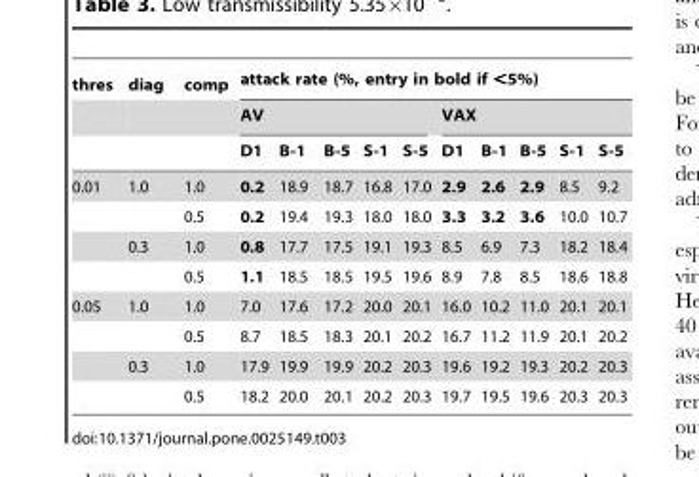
<table><thead><tr><td rowspan="3">thres</td><td rowspan="3">diag</td><td rowspan="3">comp</td><td colspan="10">attack rate (%, entry in bold if &lt;5%)</td></tr><tr><td colspan="5">AV</td><td colspan="5">VAX</td></tr><tr><td>D1</td><td>B-1</td><td>B-5</td><td>S-1</td><td>S-5</td><td>D1</td><td>B-1</td><td>B-5</td><td>S-1</td><td>S-5</td></tr></thead><tbody><tr><td rowspan="4">0.01</td><td>1.0</td><td>1.0</td><td>0.2</td><td>18.9</td><td>18.7</td><td>16.8</td><td>17.0</td><td>2.9</td><td>2.6</td><td>2.9</td><td>8.5</td><td>9.2</td></tr><tr><td></td><td>0.5</td><td>0.2</td><td>19.4</td><td>19.3</td><td>18.0</td><td>18.0</td><td>3.3</td><td>3.2</td><td>3.6</td><td>10.0</td><td>10.7</td></tr><tr><td>0.3</td><td>1.0</td><td>0.8</td><td>17.7</td><td>17.5</td><td>19.1</td><td>19.3</td><td>8.5</td><td>6.9</td><td>7.3</td><td>18.2</td><td>18.4</td></tr><tr><td></td><td>0.5</td><td>1.1</td><td>18.5</td><td>18.5</td><td>19.5</td><td>19.6</td><td>8.9</td><td>7.8</td><td>8.5</td><td>18.6</td><td>18.8</td></tr><tr><td rowspan="4">0.05</td><td>1.0</td><td>1.0</td><td>7.0</td><td>17.6</td><td>17.2</td><td>20.0</td><td>20.1</td><td>16.0</td><td>10.2</td><td>11.0</td><td>20.1</td><td>20.1</td></tr><tr><td></td><td>0.5</td><td>8.7</td><td>18.5</td><td>18.3</td><td>20.1</td><td>20.2</td><td>16.7</td><td>11.2</td><td>11.9</td><td>20.1</td><td>20.2</td></tr><tr><td>0.3</td><td>1.0</td><td>17.9</td><td>19.9</td><td>19.9</td><td>20.2</td><td>20.3</td><td>19.6</td><td>19.2</td><td>19.3</td><td>20.2</td><td>20.3</td></tr><tr><td></td><td>0.5</td><td>18.2</td><td>20.0</td><td>20.1</td><td>20.2</td><td>20.3</td><td>19.7</td><td>19.5</td><td>19.6</td><td>20.3</td><td>20.3</td></tr></tbody></table>